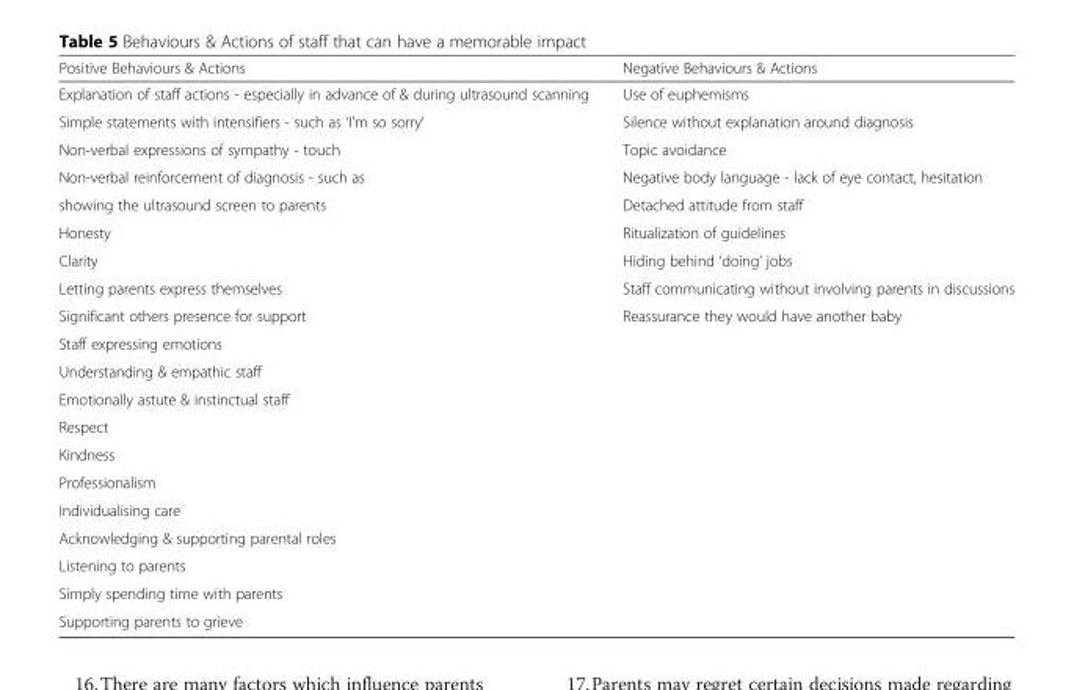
<table><thead><tr><td>Positive Behaviours &amp; Actions</td><td>Negative Behaviours &amp; Actions</td></tr></thead><tbody><tr><td>Explanation of staff actions - especially in advance of &amp; during ultrasound scanning</td><td>Use of euphemisms</td></tr><tr><td>Simple statements with intensifiers - such as ‘I’m so sorry’</td><td>Silence without explanation around diagnosis</td></tr><tr><td>Non-verbal expressions of sympathy - touch</td><td>Topic avoidance</td></tr><tr><td>Non-verbal reinforcement of diagnosis - such as</td><td>Negative body language - lack of eye contact, hesitation</td></tr><tr><td>showing the ultrasound screen to parents</td><td>Detached attitude from staff</td></tr><tr><td>Honesty</td><td>Ritualization of guidelines</td></tr><tr><td>Clarity</td><td>Hiding behind ‘doing’ jobs</td></tr><tr><td>Letting parents express themselves</td><td>Staff communicating without involving parents in discussions</td></tr><tr><td>Significant others presence for support</td><td rowspan="12">Reassurance they would have another baby</td></tr><tr><td>Staff expressing emotions</td></tr><tr><td>Understanding &amp; empathic staff</td></tr><tr><td>Emotionally astute &amp; instinctual staff</td></tr><tr><td>Respect</td></tr><tr><td>Kindness</td></tr><tr><td>Professionalism</td></tr><tr><td>Individualising care</td></tr><tr><td>Acknowledging &amp; supporting parental roles</td></tr><tr><td>Listening to parents</td></tr><tr><td>Simply spending time with parents</td></tr><tr><td>Supporting parents to grieve</td></tr></tbody></table>